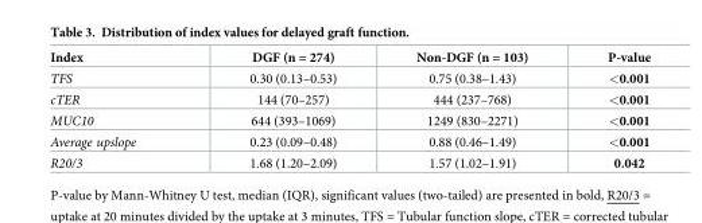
<table><thead><tr><td>Index</td><td>DGF (n = 274)</td><td>Non-DGF (n = 103)</td><td>P-value</td></tr></thead><tbody><tr><td>TFS</td><td>0.30 (0.13–0.53)</td><td>0.75 (0.38–1.43)</td><td>&lt;0.001</td></tr><tr><td>cTER</td><td>144 (70–257)</td><td>444 (237–768)</td><td>&lt;0.001</td></tr><tr><td>MUC10</td><td>644 (393–1069)</td><td>1249 (830–2271)</td><td>&lt;0.001</td></tr><tr><td>Average upslope</td><td>0.23 (0.09–0.48)</td><td>0.88 (0.46–1.49)</td><td>&lt;0.001</td></tr><tr><td>R20/3</td><td>1.68 (1.20–2.09)</td><td>1.57 (1.02–1.91)</td><td>0.042</td></tr></tbody></table>